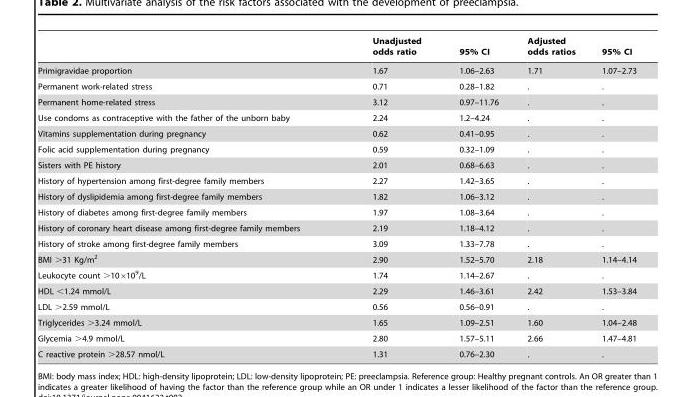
<table><thead><tr><td></td><td>Unadjusted odds ratio</td><td>95% CI</td><td>Adjusted odds ratios</td><td>95% CI</td></tr></thead><tbody><tr><td>Primigravidae proportion</td><td>1.67</td><td>1.06–2.63</td><td>1.71</td><td>1.07–2.73</td></tr><tr><td>Permanent work-related stress</td><td>0.71</td><td>0.28–1.82</td><td>.</td><td>.</td></tr><tr><td>Permanent home-related stress</td><td>3.12</td><td>0.97–11.76</td><td>.</td><td>.</td></tr><tr><td>Use condoms as contraceptive with the father of the unborn baby</td><td>2.24</td><td>1.2–4.24</td><td>.</td><td>.</td></tr><tr><td>Vitamins supplementation during pregnancy</td><td>0.62</td><td>0.41–0.95</td><td>.</td><td>.</td></tr><tr><td>Folic acid supplementation during pregnancy</td><td>0.59</td><td>0.32–1.09</td><td>.</td><td>.</td></tr><tr><td>Sisters with PE history</td><td>2.01</td><td>0.68–6.63</td><td>.</td><td>.</td></tr><tr><td>History of hypertension among first-degree family members</td><td>2.27</td><td>1.42–3.65</td><td>.</td><td>.</td></tr><tr><td>History of dyslipidemia among first-degree family members</td><td>1.82</td><td>1.06–3.12</td><td>.</td><td>.</td></tr><tr><td>History of diabetes among first-degree family members</td><td>1.97</td><td>1.08–3.64</td><td>.</td><td>.</td></tr><tr><td>History of coronary heart disease among first-degree family members</td><td>2.19</td><td>1.18–4.12</td><td>.</td><td>.</td></tr><tr><td>History of stroke among first-degree family members</td><td>3.09</td><td>1.33–7.78</td><td>.</td><td>.</td></tr><tr><td>BMI &gt;31 Kg/m<sup>2</sup></td><td>2.90</td><td>1.52–5.70</td><td>2.18</td><td>1.14–4.14</td></tr><tr><td>Leukocyte count &gt;10×10<sup>9</sup>/L</td><td>1.74</td><td>1.14–2.67</td><td>.</td><td>.</td></tr><tr><td>HDL &lt;1.24 mmol/L</td><td>2.29</td><td>1.46–3.61</td><td>2.42</td><td>1.53–3.84</td></tr><tr><td>LDL &gt;2.59 mmol/L</td><td>0.56</td><td>0.56–0.91</td><td>.</td><td>.</td></tr><tr><td>Triglycerides &gt;3.24 mmol/L</td><td>1.65</td><td>1.09–2.51</td><td>1.60</td><td>1.04–2.48</td></tr><tr><td>Glycemia &gt;4.9 mmol/L</td><td>2.80</td><td>1.57–5.11</td><td>2.66</td><td>1.47–4.81</td></tr><tr><td>C reactive protein &gt;28.57 nmol/L</td><td>1.31</td><td>0.76–2.30</td><td>.</td><td>.</td></tr></tbody></table>